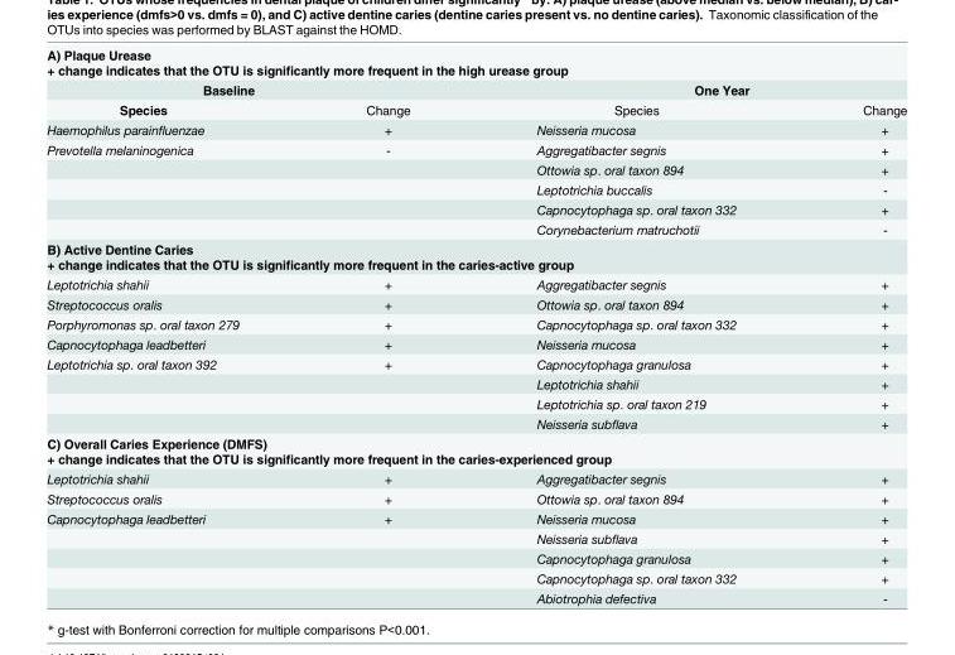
<table><tbody><tr><td colspan="4">A) Plaque Urease + change indicates that the OTU is significantly more frequent in the high urease group</td></tr><tr><td colspan="2">Baseline</td><td colspan="2">One Year</td></tr><tr><td>Species</td><td>Change</td><td>Species</td><td>Change</td></tr><tr><td>Haemophilus parainfluenzae</td><td>+</td><td>Neisseria mucosa</td><td>+</td></tr><tr><td rowspan="5">Prevotella melaninogenica</td><td>-</td><td>Aggregatibacter segnis</td><td>+</td></tr><tr><td></td><td>Ottowia sp. oral taxon 894</td><td>+</td></tr><tr><td></td><td>Leptotrichia buccalis</td><td>-</td></tr><tr><td></td><td>Capnocytophaga sp. oral taxon 332</td><td>+</td></tr><tr><td></td><td>Corynebacterium matruchotii</td><td>-</td></tr><tr><td colspan="4">B) Active Dentine Caries + change indicates that the OTU is significantly more frequent in the caries-active group</td></tr><tr><td>Leptotrichia shahii</td><td>+</td><td>Aggregatibacter segnis</td><td>+</td></tr><tr><td>Streptococcus oralis</td><td>+</td><td>Ottowia sp. oral taxon 894</td><td>+</td></tr><tr><td>Porphyromonas sp. oral taxon 279</td><td>+</td><td>Capnocytophaga sp. oral taxon 332</td><td>+</td></tr><tr><td>Capnocytophaga leadbetteri</td><td>+</td><td>Neisseria mucosa</td><td>+</td></tr><tr><td rowspan="4">Leptotrichia sp. oral taxon 392</td><td>+</td><td>Capnocytophaga granulosa</td><td>+</td></tr><tr><td></td><td>Leptotrichia shahii</td><td>+</td></tr><tr><td></td><td>Leptotrichia sp. oral taxon 219</td><td>+</td></tr><tr><td></td><td>Neisseria subflava</td><td>+</td></tr><tr><td colspan="4">C) Overall Caries Experience (DMFS) + change indicates that the OTU is significantly more frequent in the caries-experienced group</td></tr><tr><td>Leptotrichia shahii</td><td>+</td><td>Aggregatibacter segnis</td><td>+</td></tr><tr><td>Streptococcus oralis</td><td>+</td><td>Ottowia sp. oral taxon 894</td><td>+</td></tr><tr><td rowspan="5">Capnocytophaga leadbetteri</td><td>+</td><td>Neisseria mucosa</td><td>+</td></tr><tr><td></td><td>Neisseria subflava</td><td>+</td></tr><tr><td></td><td>Capnocytophaga granulosa</td><td>+</td></tr><tr><td></td><td>Capnocytophaga sp. oral taxon 332</td><td>+</td></tr><tr><td></td><td>Abiotrophia defectiva</td><td>-</td></tr></tbody></table>